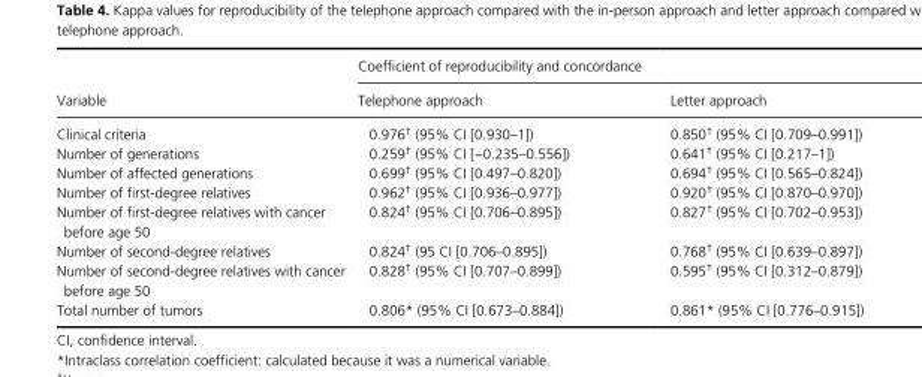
<table><thead><tr><td rowspan="2">Variable</td><td colspan="2">Coefficient of reproducibility and concordance</td></tr><tr><td>Telephone approach</td><td>Letter approach</td></tr></thead><tbody><tr><td>Clinical criteria</td><td>0.976† (95% CI [0.930–1])</td><td>0.850† (95% CI [0.709–0.991])</td></tr><tr><td>Number of generations</td><td>0.259† (95% CI [−0.235–0.556])</td><td>0.641† (95% CI [0.217–1])</td></tr><tr><td>Number of affected generations</td><td>0.699† (95% CI [0.497–0.820])</td><td>0.694† (95% CI [0.565–0.824])</td></tr><tr><td>Number of first- degree relatives</td><td>0.962† (95% CI [0.936–0.977])</td><td>0.920† (95% CI [0.870–0.970])</td></tr><tr><td>Number of first- degree relatives with cancer before age 50</td><td>0.824† (95% CI [0.706–0.895])</td><td>0.827† (95% CI [0.702–0.953])</td></tr><tr><td>Number of second- degree relatives</td><td>0.824† (95 CI [0.706–0.895])</td><td>0.768† (95% CI [0.639–0.897])</td></tr><tr><td>Number of second- degree relatives with cancer before age 50</td><td>0.828† (95% CI [0.707–0.899])</td><td>0.595† (95% CI [0.312–0.879])</td></tr><tr><td>Total number of tumors</td><td>0.806* (95% CI [0.673–0.884])</td><td>0.861* (95% CI [0.776–0.915])</td></tr></tbody></table>